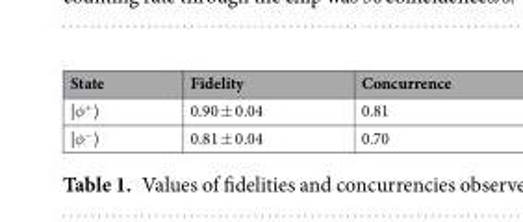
<table><thead><tr><td>State</td><td>Fidelity</td><td>Concurrence</td></tr></thead><tbody><tr><td>|φ<sup>+</sup>〉</td><td>0.90 ± 0.04</td><td>0.81</td></tr><tr><td>|φ<sup>−</sup>〉</td><td>0.81 ± 0.04</td><td>0.70</td></tr></tbody></table>